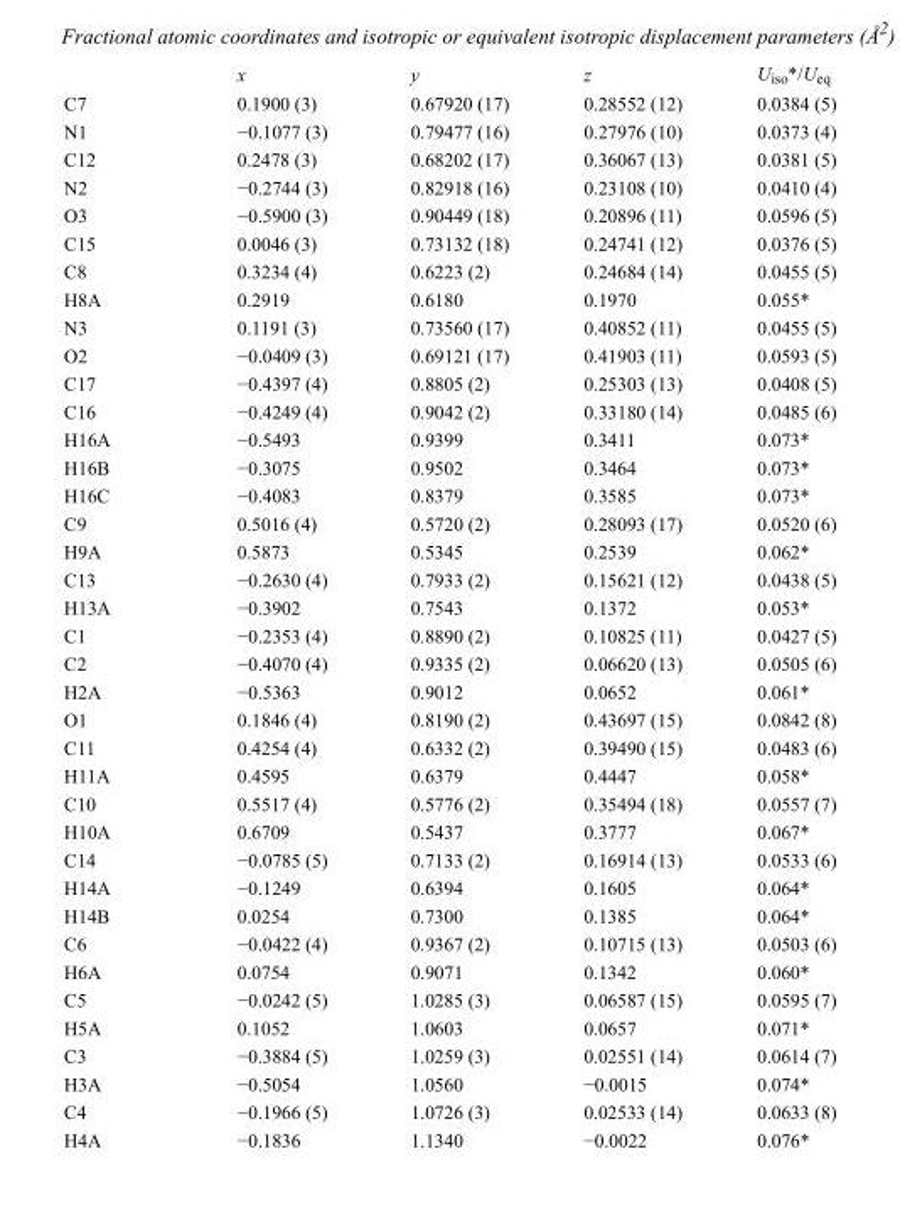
<table><thead><tr><td></td><td>x</td><td>y</td><td>z</td><td>U<sub>iso</sub>*/U<sub>eq</sub></td></tr></thead><tbody><tr><td>C7</td><td>0.1900 (3)</td><td>0.67920 (17)</td><td>0.28552 (12)</td><td>0.0384 (5)</td></tr><tr><td>N1</td><td>−0.1077 (3)</td><td>0.79477 (16)</td><td>0.27976 (10)</td><td>0.0373 (4)</td></tr><tr><td>C12</td><td>0.2478 (3)</td><td>0.68202 (17)</td><td>0.36067 (13)</td><td>0.0381 (5)</td></tr><tr><td>N2</td><td>−0.2744 (3)</td><td>0.82918 (16)</td><td>0.23108 (10)</td><td>0.0410 (4)</td></tr><tr><td>O3</td><td>−0.5900 (3)</td><td>0.90449 (18)</td><td>0.20896 (11)</td><td>0.0596 (5)</td></tr><tr><td>C15</td><td>0.0046 (3)</td><td>0.73132 (18)</td><td>0.24741 (12)</td><td>0.0376 (5)</td></tr><tr><td>C8</td><td>0.3234 (4)</td><td>0.6223 (2)</td><td>0.24684 (14)</td><td>0.0455 (5)</td></tr><tr><td>H8A</td><td>0.2919</td><td>0.6180</td><td>0.1970</td><td>0.055*</td></tr><tr><td>N3</td><td>0.1191 (3)</td><td>0.73560 (17)</td><td>0.40852 (11)</td><td>0.0455 (5)</td></tr><tr><td>O2</td><td>−0.0409 (3)</td><td>0.69121 (17)</td><td>0.41903 (11)</td><td>0.0593 (5)</td></tr><tr><td>C17</td><td>−0.4397 (4)</td><td>0.8805 (2)</td><td>0.25303 (13)</td><td>0.0408 (5)</td></tr><tr><td>C16</td><td>−0.4249 (4)</td><td>0.9042 (2)</td><td>0.33180 (14)</td><td>0.0485 (6)</td></tr><tr><td>H16A</td><td>−0.5493</td><td>0.9399</td><td>0.3411</td><td>0.073*</td></tr><tr><td>H16B</td><td>−0.3075</td><td>0.9502</td><td>0.3464</td><td>0.073*</td></tr><tr><td>H16C</td><td>−0.4083</td><td>0.8379</td><td>0.3585</td><td>0.073*</td></tr><tr><td>C9</td><td>0.5016 (4)</td><td>0.5720 (2)</td><td>0.28093 (17)</td><td>0.0520 (6)</td></tr><tr><td>H9A</td><td>0.5873</td><td>0.5345</td><td>0.2539</td><td>0.062*</td></tr><tr><td>C13</td><td>−0.2630 (4)</td><td>0.7933 (2)</td><td>0.15621 (12)</td><td>0.0438 (5)</td></tr><tr><td>H13A</td><td>−0.3902</td><td>0.7543</td><td>0.1372</td><td>0.053*</td></tr><tr><td>C1</td><td>−0.2353 (4)</td><td>0.8890 (2)</td><td>0.10825 (11)</td><td>0.0427 (5)</td></tr><tr><td>C2</td><td>−0.4070 (4)</td><td>0.9335 (2)</td><td>0.06620 (13)</td><td>0.0505 (6)</td></tr><tr><td>H2A</td><td>−0.5363</td><td>0.9012</td><td>0.0652</td><td>0.061*</td></tr><tr><td>O1</td><td>0.1846 (4)</td><td>0.8190 (2)</td><td>0.43697 (15)</td><td>0.0842 (8)</td></tr><tr><td>C11</td><td>0.4254 (4)</td><td>0.6332 (2)</td><td>0.39490 (15)</td><td>0.0483 (6)</td></tr><tr><td>H11A</td><td>0.4595</td><td>0.6379</td><td>0.4447</td><td>0.058*</td></tr><tr><td>C10</td><td>0.5517 (4)</td><td>0.5776 (2)</td><td>0.35494 (18)</td><td>0.0557 (7)</td></tr><tr><td>H10A</td><td>0.6709</td><td>0.5437</td><td>0.3777</td><td>0.067*</td></tr><tr><td>C14</td><td>−0.0785 (5)</td><td>0.7133 (2)</td><td>0.16914 (13)</td><td>0.0533 (6)</td></tr><tr><td>H14A</td><td>−0.1249</td><td>0.6394</td><td>0.1605</td><td>0.064*</td></tr><tr><td>H14B</td><td>0.0254</td><td>0.7300</td><td>0.1385</td><td>0.064*</td></tr><tr><td>C6</td><td>−0.0422 (4)</td><td>0.9367 (2)</td><td>0.10715 (13)</td><td>0.0503 (6)</td></tr><tr><td>H6A</td><td>0.0754</td><td>0.9071</td><td>0.1342</td><td>0.060*</td></tr><tr><td>C5</td><td>−0.0242 (5)</td><td>1.0285 (3)</td><td>0.06587 (15)</td><td>0.0595 (7)</td></tr><tr><td>H5A</td><td>0.1052</td><td>1.0603</td><td>0.0657</td><td>0.071*</td></tr><tr><td>C3</td><td>−0.3884 (5)</td><td>1.0259 (3)</td><td>0.02551 (14)</td><td>0.0614 (7)</td></tr><tr><td>H3A</td><td>−0.5054</td><td>1.0560</td><td>−0.0015</td><td>0.074*</td></tr><tr><td>C4</td><td>−0.1966 (5)</td><td>1.0726 (3)</td><td>0.02533 (14)</td><td>0.0633 (8)</td></tr><tr><td>H4A</td><td>−0.1836</td><td>1.1340</td><td>−0.0022</td><td>0.076*</td></tr></tbody></table>